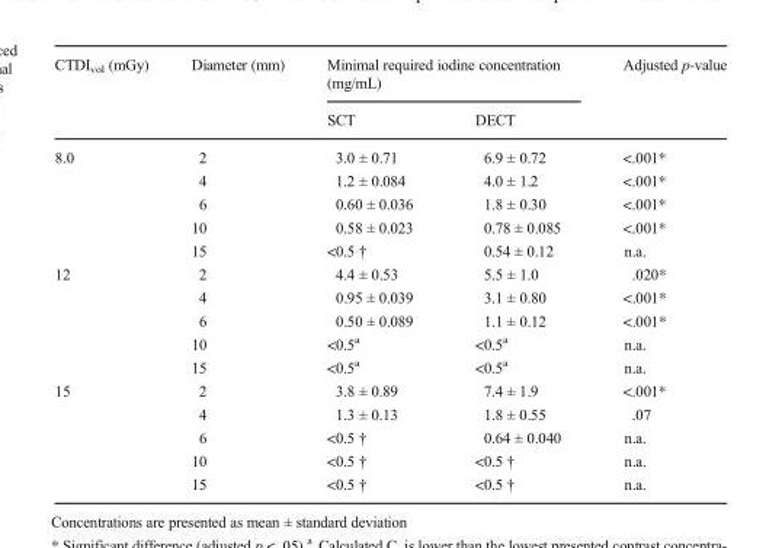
<table><thead><tr><td rowspan="2">CTDI<sub>vol</sub> (mGy)</td><td rowspan="2">Diameter (mm)</td><td colspan="2">Minimal required iodine concentration (mg/mL)</td><td rowspan="2">Adjusted p-value</td></tr><tr><td>SCT</td><td>DECT</td></tr></thead><tbody><tr><td rowspan="5">8.0</td><td>2</td><td>3.0 ± 0.71</td><td>6.9 ± 0.72</td><td>&lt;.001*</td></tr><tr><td>4</td><td>1.2 ± 0.084</td><td>4.0 ± 1.2</td><td>&lt;.001*</td></tr><tr><td>6</td><td>0.60 ± 0.036</td><td>1.8 ± 0.30</td><td>&lt;.001*</td></tr><tr><td>10</td><td>0.58 ± 0.023</td><td>0.78 ± 0.085</td><td>&lt;.001*</td></tr><tr><td>15</td><td>&lt;0.5 †</td><td>0.54 ± 0.12</td><td>n.a.</td></tr><tr><td rowspan="5">12</td><td>2</td><td>4.4 ± 0.53</td><td>5.5 ± 1.0</td><td>.020*</td></tr><tr><td>4</td><td>0.95 ± 0.039</td><td>3.1 ± 0.80</td><td>&lt;.001*</td></tr><tr><td>6</td><td>0.50 ± 0.089</td><td>1.1 ± 0.12</td><td>&lt;.001*</td></tr><tr><td>10</td><td>&lt;0.5<sup>a</sup></td><td>&lt;0.5<sup>a</sup></td><td>n.a.</td></tr><tr><td>15</td><td>&lt;0.5<sup>a</sup></td><td>&lt;0.5<sup>a</sup></td><td>n.a.</td></tr><tr><td rowspan="5">15</td><td>2</td><td>3.8 ± 0.89</td><td>7.4 ± 1.9</td><td>&lt;.001*</td></tr><tr><td>4</td><td>1.3 ± 0.13</td><td>1.8 ± 0.55</td><td>.07</td></tr><tr><td>6</td><td>&lt;0.5 †</td><td>0.64 ± 0.040</td><td>n.a.</td></tr><tr><td>10</td><td>&lt;0.5 †</td><td>&lt;0.5 †</td><td>n.a.</td></tr><tr><td>15</td><td>&lt;0.5 †</td><td>&lt;0.5 †</td><td>n.a.</td></tr></tbody></table>